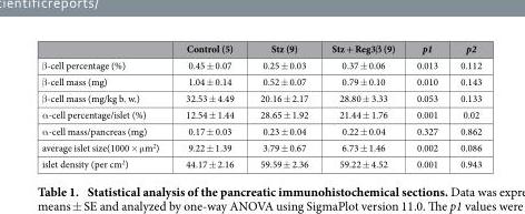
<table><thead><tr><td></td><td>Control (5)</td><td>Stz (9)</td><td>Stz + Reg3β (9)</td><td>p1</td><td>p2</td></tr></thead><tbody><tr><td>β -cell percentage (%)</td><td>0.45 ± 0.07</td><td>0.25 ± 0.03</td><td>0.37 ± 0.06</td><td>0.013</td><td>0.112</td></tr><tr><td>β -cell mass (mg)</td><td>1.04 ± 0.14</td><td>0.52 ± 0.07</td><td>0.79 ± 0.10</td><td>0.010</td><td>0.143</td></tr><tr><td>β -cell mass (mg/kg b. w.)</td><td>32.53 ± 4.49</td><td>20.16 ± 2.17</td><td>28.80 ± 3.33</td><td>0.053</td><td>0.133</td></tr><tr><td>α -cell percentage/islet (%)</td><td>12.54 ± 1.44</td><td>28.65 ± 1.92</td><td>21.44 ± 1.76</td><td>0.001</td><td>0.02</td></tr><tr><td>α -cell mass/pancreas (mg)</td><td>0.17 ± 0.03</td><td>0.23 ± 0.04</td><td>0.22 ± 0.04</td><td>0.327</td><td>0.862</td></tr><tr><td>average islet size(1000 × μ m<sup>2</sup>)</td><td>9.22 ± 1.39</td><td>3.79 ± 0.67</td><td>6.73 ± 1.46</td><td>0.002</td><td>0.086</td></tr><tr><td>islet density (per cm<sup>2</sup>)</td><td>44.17 ± 2.16</td><td>59.59 ± 2.36</td><td>59.22 ± 4.52</td><td>0.001</td><td>0.943</td></tr></tbody></table>